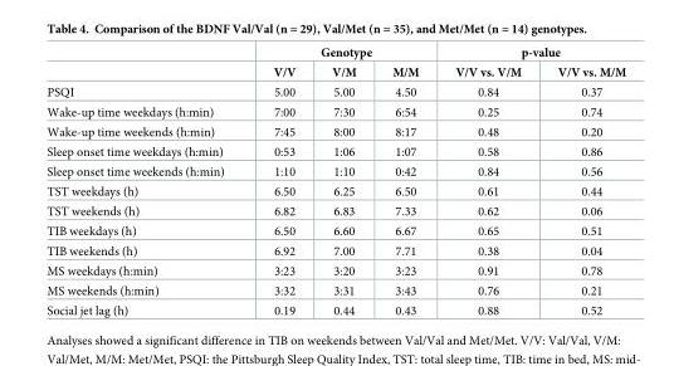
<table><thead><tr><td rowspan="2"></td><td colspan="3">Genotype</td><td colspan="2">p-value</td></tr><tr><td>V/V</td><td>V/M</td><td>M/M</td><td>V/V vs. V/M</td><td>V/V vs. M/M</td></tr></thead><tbody><tr><td>PSQI</td><td>5.00</td><td>5.00</td><td>4.50</td><td>0.84</td><td>0.37</td></tr><tr><td>Wake-up time weekdays (h:min)</td><td>7:00</td><td>7:30</td><td>6:54</td><td>0.25</td><td>0.74</td></tr><tr><td>Wake-up time weekends (h:min)</td><td>7:45</td><td>8:00</td><td>8:17</td><td>0.48</td><td>0.20</td></tr><tr><td>Sleep onset time weekdays (h:min)</td><td>0:53</td><td>1:06</td><td>1:07</td><td>0.58</td><td>0.86</td></tr><tr><td>Sleep onset time weekends (h:min)</td><td>1:10</td><td>1:10</td><td>0:42</td><td>0.84</td><td>0.56</td></tr><tr><td>TST weekdays (h)</td><td>6.50</td><td>6.25</td><td>6.50</td><td>0.61</td><td>0.44</td></tr><tr><td>TST weekends (h)</td><td>6.82</td><td>6.83</td><td>7.33</td><td>0.62</td><td>0.06</td></tr><tr><td>TIB weekdays (h)</td><td>6.50</td><td>6.60</td><td>6.67</td><td>0.65</td><td>0.51</td></tr><tr><td>TIB weekends (h)</td><td>6.92</td><td>7.00</td><td>7.71</td><td>0.38</td><td>0.04</td></tr><tr><td>MS weekdays (h:min)</td><td>3:23</td><td>3:20</td><td>3:23</td><td>0.91</td><td>0.78</td></tr><tr><td>MS weekends (h:min)</td><td>3:32</td><td>3:31</td><td>3:43</td><td>0.76</td><td>0.21</td></tr><tr><td>Social jet lag (h)</td><td>0.19</td><td>0.44</td><td>0.43</td><td>0.88</td><td>0.52</td></tr></tbody></table>